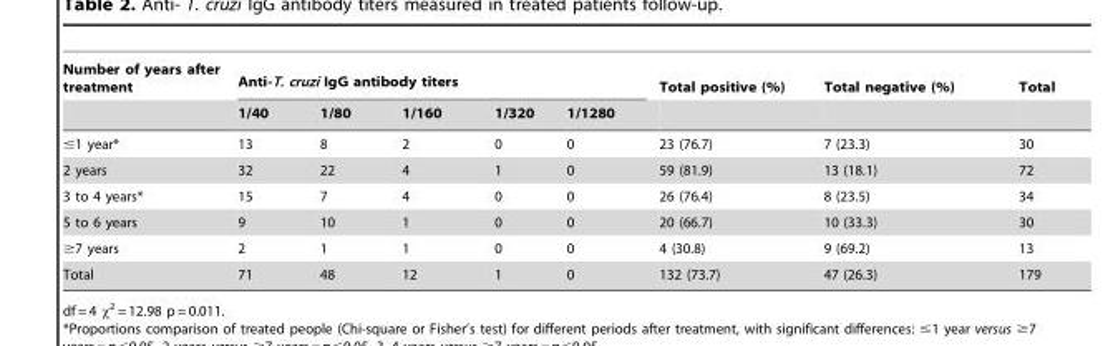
<table><thead><tr><td rowspan="2">Number of years after treatment</td><td colspan="5">Anti-T. cruzi IgG antibody titers</td><td rowspan="2">Total positive (%)</td><td rowspan="2">Total negative (%)</td><td rowspan="2">Total</td></tr><tr><td>1/40</td><td>1/80</td><td>1/160</td><td>1/320</td><td>1/1280</td></tr></thead><tbody><tr><td>≤1 year*</td><td>13</td><td>8</td><td>2</td><td>0</td><td>0</td><td>23 (76.7)</td><td>7 (23.3)</td><td>30</td></tr><tr><td>2 years</td><td>32</td><td>22</td><td>4</td><td>1</td><td>0</td><td>59 (81.9)</td><td>13 (18.1)</td><td>72</td></tr><tr><td>3 to 4 years*</td><td>15</td><td>7</td><td>4</td><td>0</td><td>0</td><td>26 (76.4)</td><td>8 (23.5)</td><td>34</td></tr><tr><td>5 to 6 years</td><td>9</td><td>10</td><td>1</td><td>0</td><td>0</td><td>20 (66.7)</td><td>10 (33.3)</td><td>30</td></tr><tr><td>≥7 years</td><td>2</td><td>1</td><td>1</td><td>0</td><td>0</td><td>4 (30.8)</td><td>9 (69.2)</td><td>13</td></tr><tr><td>Total</td><td>71</td><td>48</td><td>12</td><td>1</td><td>0</td><td>132 (73.7)</td><td>47 (26.3)</td><td>179</td></tr></tbody></table>